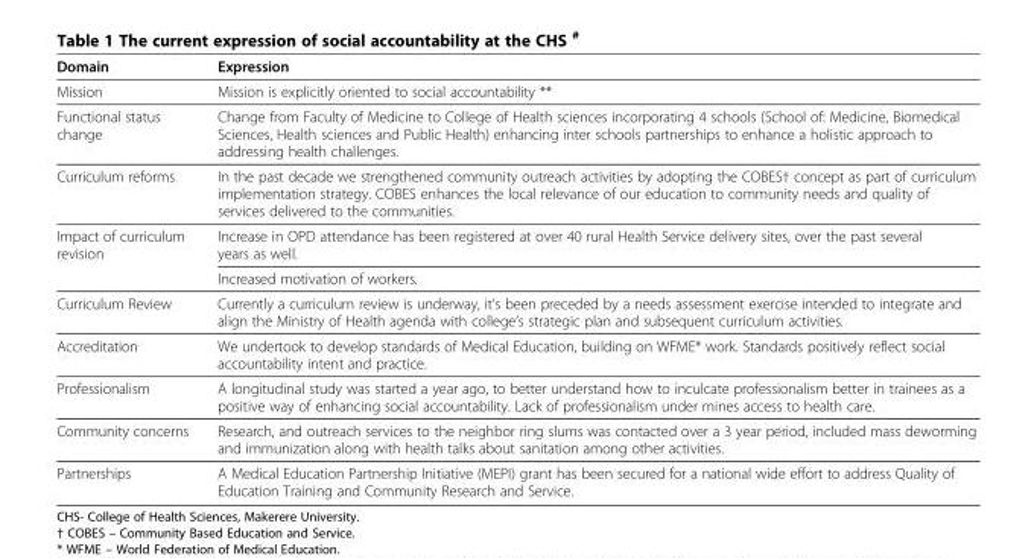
<table><thead><tr><td>Domain</td><td>Expression</td></tr></thead><tbody><tr><td>Mission</td><td>Mission is explicitly oriented to social accountability **</td></tr><tr><td>Functional status change</td><td>Change from Faculty of Medicine to College of Health sciences incorporating 4 schools (School of: Medicine, Biomedical Sciences, Health sciences and Public Health) enhancing inter schools partnerships to enhance a holistic approach to addressing health challenges.</td></tr><tr><td>Curriculum reforms</td><td>In the past decade we strengthened community outreach activities by adopting the COBES† concept as part of curriculum implementation strategy. COBES enhances the local relevance of our education to community needs and quality of services delivered to the communities.</td></tr><tr><td rowspan="2">Impact of curriculum revision</td><td>Increase in OPD attendance has been registered at over 40 rural Health Service delivery sites, over the past several years as well.</td></tr><tr><td>Increased motivation of workers.</td></tr><tr><td>Curriculum Review</td><td>Currently a curriculum review is underway, it’s been preceded by a needs assessment exercise intended to integrate and align the Ministry of Health agenda with college’s strategic plan and subsequent curriculum activities.</td></tr><tr><td>Accreditation</td><td>We undertook to develop standards of Medical Education, building on WFME* work. Standards positively reflect social accountability intent and practice.</td></tr><tr><td>Professionalism</td><td>A longitudinal study was started a year ago, to better understand how to inculcate professionalism better in trainees as a positive way of enhancing social accountability. Lack of professionalism under mines access to health care.</td></tr><tr><td>Community concerns</td><td>Research, and outreach services to the neighbor ring slums was contacted over a 3 year period, included mass deworming and immunization along with health talks about sanitation among other activities.</td></tr><tr><td>Partnerships</td><td>A Medical Education Partnership Initiative (MEPI) grant has been secured for a national wide effort to address Quality of Education Training and Community Research and Service.</td></tr></tbody></table>